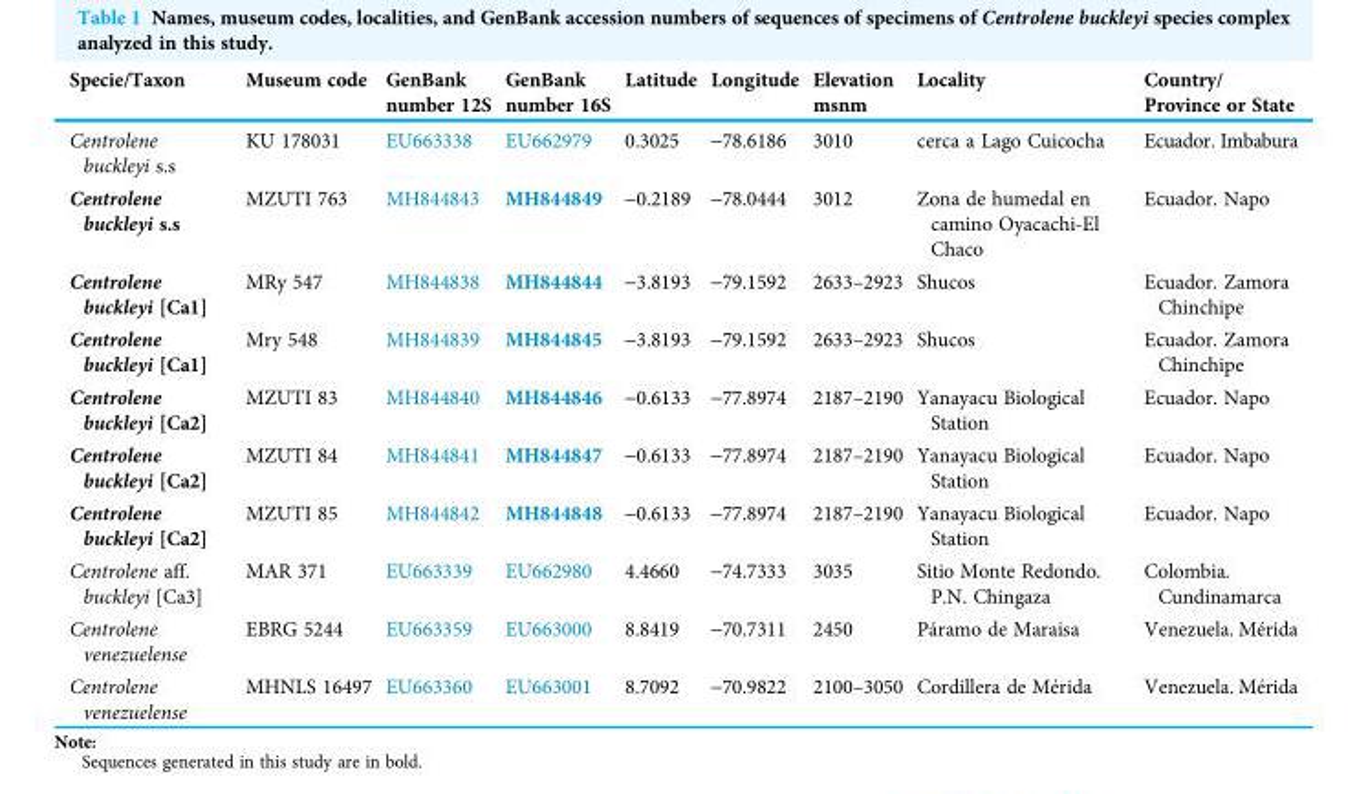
<table><thead><tr><td>Specie/Taxon</td><td>Museum code</td><td>GenBank number 12S</td><td>GenBank number 16S</td><td>Latitude</td><td>Longitude</td><td>Elevation msnm</td><td>Locality</td><td>Country/ Province or State</td></tr></thead><tbody><tr><td>Centrolene buckleyi s.s</td><td>KU 178031</td><td>EU663338</td><td>EU662979</td><td>0.3025</td><td>-78.6186</td><td>3010</td><td>cerca a Lago Cuicocha</td><td>Ecuador. Imbabura</td></tr><tr><td>Centrolene buckleyi s.s</td><td>MZUTI 763</td><td>MH844843</td><td>MH844849</td><td>-0.2189</td><td>-78.0444</td><td>3012</td><td>Zona de humedal en camino Oyacachi-El Chaco</td><td>Ecuador. Napo</td></tr><tr><td>Centrolene buckleyi [Ca1]</td><td>MRy 547</td><td>MH844838</td><td>MH844844</td><td>-3.8193</td><td>-79.1592</td><td>2633–2923</td><td>Shucos</td><td>Ecuador. Zamora Chinchipe</td></tr><tr><td>Centrolene buckleyi [Ca1]</td><td>Mry 548</td><td>MH844839</td><td>MH844845</td><td>-3.8193</td><td>-79.1592</td><td>2633–2923</td><td>Shucos</td><td>Ecuador. Zamora Chinchipe</td></tr><tr><td>Centrolene buckleyi [Ca2]</td><td>MZUTI 83</td><td>MH844840</td><td>MH844846</td><td>-0.6133</td><td>-77.8974</td><td>2187–2190</td><td>Yanayacu Biological Station</td><td>Ecuador. Napo</td></tr><tr><td>Centrolene buckleyi [Ca2]</td><td>MZUTI 84</td><td>MH844841</td><td>MH844847</td><td>-0.6133</td><td>-77.8974</td><td>2187–2190</td><td>Yanayacu Biological Station</td><td>Ecuador. Napo</td></tr><tr><td>Centrolene buckleyi [Ca2]</td><td>MZUTI 85</td><td>MH844842</td><td>MH844848</td><td>-0.6133</td><td>-77.8974</td><td>2187–2190</td><td>Yanayacu Biological Station</td><td>Ecuador. Napo</td></tr><tr><td>Centrolene aff. buckleyi [Ca3]</td><td>MAR 371</td><td>EU663339</td><td>EU662980</td><td>4.4660</td><td>-74.7333</td><td>3035</td><td>Sitio Monte Redondo. P.N. Chingaza</td><td>Colombia. Cundinamarca</td></tr><tr><td>Centrolene venezuelense</td><td>EBRG 5244</td><td>EU663359</td><td>EU663000</td><td>8.8419</td><td>-70.7311</td><td>2450</td><td>Páramo de Maraisa</td><td>Venezuela. Mérida</td></tr><tr><td>Centrolene venezuelense</td><td>MHNLS 16497</td><td>EU663360</td><td>EU663001</td><td>8.7092</td><td>-70.9822</td><td>2100–3050</td><td>Cordillera de Mérida</td><td>Venezuela. Mérida</td></tr></tbody></table>